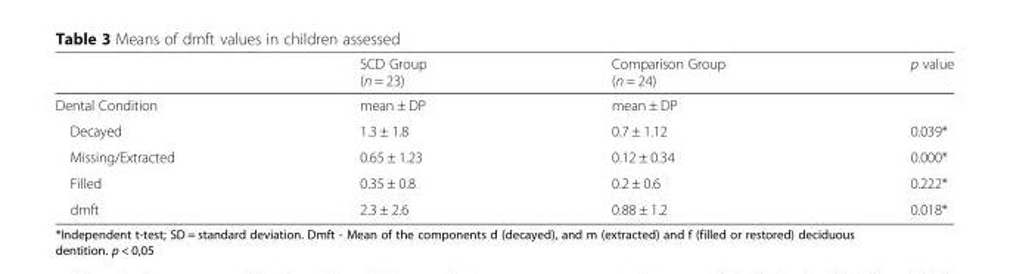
<table><thead><tr><td></td><td>SCD Group (n = 23)</td><td>Comparison Group (n = 24)</td><td>p value</td></tr></thead><tbody><tr><td>Dental Condition</td><td>mean ± DP</td><td>mean ± DP</td><td></td></tr><tr><td>Decayed</td><td>1.3 ± 1.8</td><td>0.7 ± 1.12</td><td>0.039*</td></tr><tr><td>Missing/Extracted</td><td>0.65 ± 1.23</td><td>0.12 ± 0.34</td><td>0.000*</td></tr><tr><td>Filled</td><td>0.35 ± 0.8</td><td>0.2 ± 0.6</td><td>0.222*</td></tr><tr><td>dmft</td><td>2.3 ± 2.6</td><td>0.88 ± 1.2</td><td>0.018*</td></tr></tbody></table>